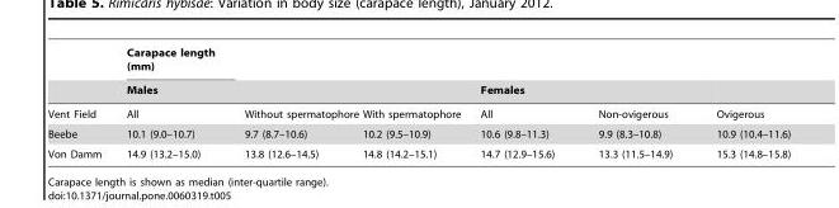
<table><thead><tr><td rowspan="2"></td><td rowspan="2">Carapace length (mm) Males</td><td rowspan="2"></td><td rowspan="2"></td><td rowspan="2">Females</td><td rowspan="2"></td><td rowspan="2"></td></tr><tr></tr></thead><tbody><tr><td>Vent Field</td><td>All</td><td>Without spermatophore</td><td>With spermatophore</td><td>All</td><td>Non-ovigerous</td><td>Ovigerous</td></tr><tr><td>Beebe</td><td>10.1 (9.0–10.7)</td><td>9.7 (8.7–10.6)</td><td>10.2 (9.5–10.9)</td><td>10.6 (9.8–11.3)</td><td>9.9 (8.3–10.8)</td><td>10.9 (10.4–11.6)</td></tr><tr><td>Von Damm</td><td>14.9 (13.2–15.0)</td><td>13.8 (12.6–14.5)</td><td>14.8 (14.2–15.1)</td><td>14.7 (12.9–15.6)</td><td>13.3 (11.5–14.9)</td><td>15.3 (14.8–15.8)</td></tr></tbody></table>